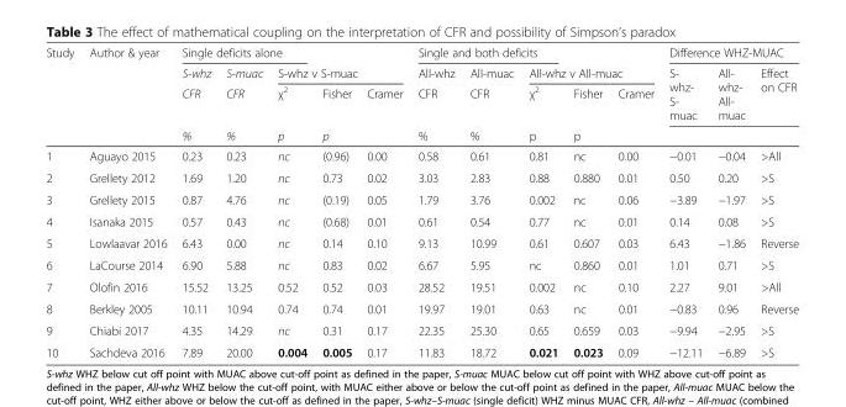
<table><thead><tr><td rowspan="4">Study</td><td rowspan="4">Author &amp; year</td><td colspan="3">Single deficits alone</td><td></td><td></td><td colspan="3">Single and both deficits</td><td></td><td></td><td colspan="3">Difference WHZ-MUAC</td></tr><tr><td rowspan="3">S-whz CFR %</td><td rowspan="3">S-muac CFR %</td><td colspan="3">S-whz v S-muac</td><td rowspan="3">All-whz CFR %</td><td rowspan="3">All-muac CFR %</td><td colspan="3">All-whz v All-muac</td><td rowspan="3">S- whz- S- muac</td><td rowspan="3">All- whz- All- muac</td><td rowspan="3">Effect on CFR</td></tr><tr><td rowspan="2">χ2 p</td><td rowspan="2">Fisher p</td><td rowspan="2">Cramer</td><td rowspan="2">χ2 p</td><td rowspan="2">Fisher p</td><td rowspan="2">Cramer</td></tr><tr></tr></thead><tbody><tr><td>1</td><td>Aguayo 2015</td><td>0.23</td><td>0.23</td><td>nc</td><td>(0.96)</td><td>0.00</td><td>0.58</td><td>0.61</td><td>0.81</td><td>nc</td><td>0.00</td><td>−0.01</td><td>−0.04</td><td>&gt;All</td></tr><tr><td>2</td><td>Grellety 2012</td><td>1.69</td><td>1.20</td><td>nc</td><td>0.73</td><td>0.02</td><td>3.03</td><td>2.83</td><td>0.88</td><td>0.880</td><td>0.01</td><td>0.50</td><td>0.20</td><td>&gt;S</td></tr><tr><td>3</td><td>Grellety 2015</td><td>0.87</td><td>4.76</td><td>nc</td><td>(0.19)</td><td>0.05</td><td>1.79</td><td>3.76</td><td>0.002</td><td>nc</td><td>0.06</td><td>−3.89</td><td>−1.97</td><td>&gt;S</td></tr><tr><td>4</td><td>Isanaka 2015</td><td>0.57</td><td>0.43</td><td>nc</td><td>(0.68)</td><td>0.01</td><td>0.61</td><td>0.54</td><td>0.77</td><td>nc</td><td>0.01</td><td>0.14</td><td>0.08</td><td>&gt;S</td></tr><tr><td>5</td><td>Lowlaavar 2016</td><td>6.43</td><td>0.00</td><td>nc</td><td>0.14</td><td>0.10</td><td>9.13</td><td>10.99</td><td>0.61</td><td>0.607</td><td>0.03</td><td>6.43</td><td>−1.86</td><td>Reverse</td></tr><tr><td>6</td><td>LaCourse 2014</td><td>6.90</td><td>5.88</td><td>nc</td><td>0.83</td><td>0.02</td><td>6.67</td><td>5.95</td><td>nc</td><td>0.860</td><td>0.01</td><td>1.01</td><td>0.71</td><td>&gt;S</td></tr><tr><td>7</td><td>Olofin 2016</td><td>15.52</td><td>13.25</td><td>0.52</td><td>0.52</td><td>0.03</td><td>28.52</td><td>19.51</td><td>0.002</td><td>nc</td><td>0.10</td><td>2.27</td><td>9.01</td><td>&gt;All</td></tr><tr><td>8</td><td>Berkley 2005</td><td>10.11</td><td>10.94</td><td>0.74</td><td>0.74</td><td>0.01</td><td>19.97</td><td>19.01</td><td>0.63</td><td>nc</td><td>0.01</td><td>−0.83</td><td>0.96</td><td>Reverse</td></tr><tr><td>9</td><td>Chiabi 2017</td><td>4.35</td><td>14.29</td><td>nc</td><td>0.31</td><td>0.17</td><td>22.35</td><td>25.30</td><td>0.65</td><td>0.659</td><td>0.03</td><td>−9.94</td><td>−2.95</td><td>&gt;S</td></tr><tr><td>10</td><td>Sachdeva 2016</td><td>7.89</td><td>20.00</td><td>0.004</td><td>0.005</td><td>0.17</td><td>11.83</td><td>18.72</td><td>0.021</td><td>0.023</td><td>0.09</td><td>−12.11</td><td>−6.89</td><td>&gt;S</td></tr></tbody></table>